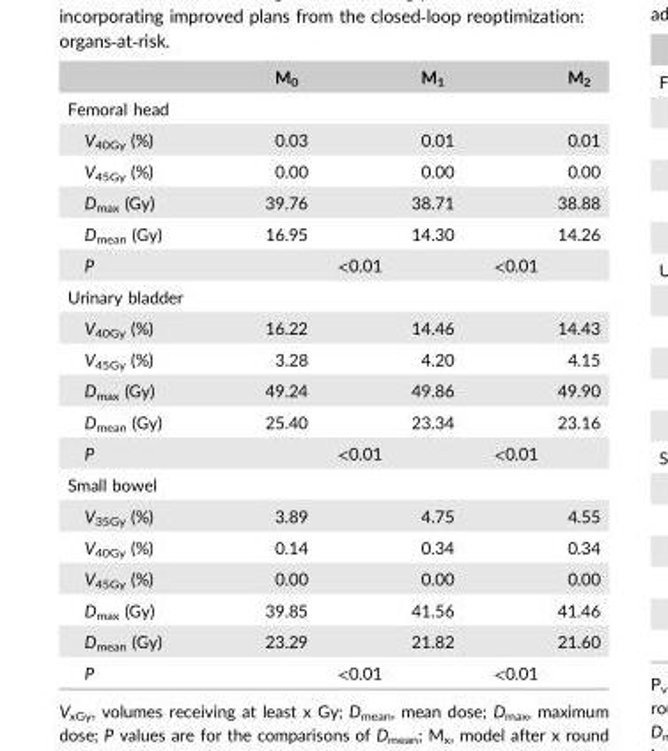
<table><thead><tr><td></td><td>M<sub>0</sub></td><td>M<sub>1</sub></td><td>M<sub>2</sub></td></tr></thead><tbody><tr><td colspan="4">Femoral head</td></tr><tr><td>V<sub>40Gy</sub> (%)</td><td>0.03</td><td>0.01</td><td>0.01</td></tr><tr><td>V<sub>45Gy</sub> (%)</td><td>0.00</td><td>0.00</td><td>0.00</td></tr><tr><td>D<sub>max</sub> (Gy)</td><td>39.76</td><td>38.71</td><td>38.88</td></tr><tr><td>D<sub>mean</sub> (Gy)</td><td>16.95</td><td>14.30</td><td>14.26</td></tr><tr><td>P</td><td colspan="2">&lt;0.01</td><td>&lt;0.01</td></tr><tr><td colspan="4">Urinary bladder</td></tr><tr><td>V<sub>40Gy</sub> (%)</td><td>16.22</td><td>14.46</td><td>14.43</td></tr><tr><td>V<sub>45Gy</sub> (%)</td><td>3.28</td><td>4.20</td><td>4.15</td></tr><tr><td>D<sub>max</sub> (Gy)</td><td>49.24</td><td>49.86</td><td>49.90</td></tr><tr><td>D<sub>mean</sub> (Gy)</td><td>25.40</td><td>23.34</td><td>23.16</td></tr><tr><td>P</td><td colspan="2">&lt;0.01</td><td>&lt;0.01</td></tr><tr><td colspan="4">Small bowel</td></tr><tr><td>V<sub>35Gy</sub> (%)</td><td>3.89</td><td>4.75</td><td>4.55</td></tr><tr><td>V<sub>40Gy</sub> (%)</td><td>0.14</td><td>0.34</td><td>0.34</td></tr><tr><td>V<sub>45Gy</sub> (%)</td><td>0.00</td><td>0.00</td><td>0.00</td></tr><tr><td>D<sub>max</sub> (Gy)</td><td>39.85</td><td>41.56</td><td>41.46</td></tr><tr><td>D<sub>mean</sub> (Gy)</td><td>23.29</td><td>21.82</td><td>21.60</td></tr><tr><td>P</td><td colspan="2">&lt;0.01</td><td>&lt;0.01</td></tr></tbody></table>